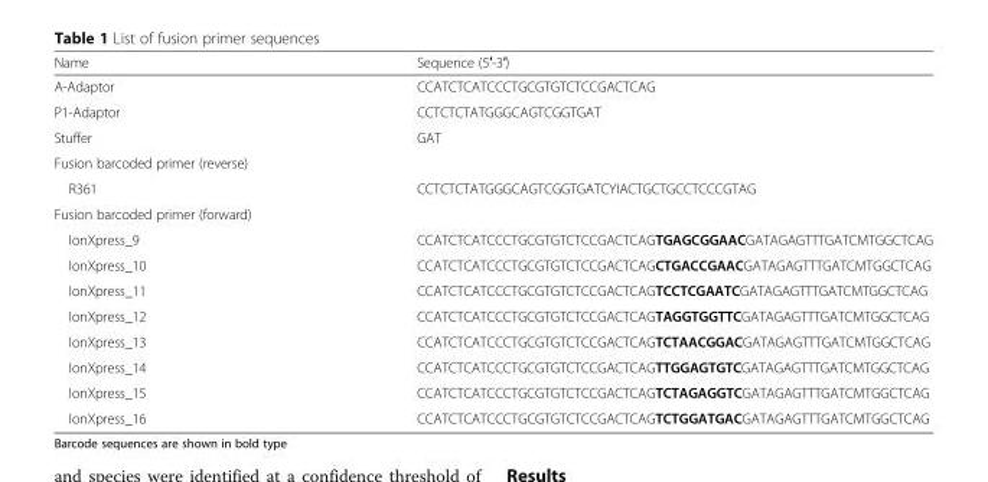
<table><thead><tr><td>Name</td><td>Sequence (5′-3′)</td></tr></thead><tbody><tr><td>A-Adaptor</td><td>CCATCTCATCCCTGCGTGTCTCCGACTCAG</td></tr><tr><td>P1-Adaptor</td><td>CCTCTCTATGGGCAGTCGGTGAT</td></tr><tr><td>Stuffer</td><td>GAT</td></tr><tr><td colspan="2">Fusion barcoded primer (reverse)</td></tr><tr><td>R361</td><td>CCTCTCTATGGGCAGTCGGTGATCYIACTGCTGCCTCCCGTAG</td></tr><tr><td colspan="2">Fusion barcoded primer (forward)</td></tr><tr><td>IonXpress_9</td><td>CCATCTCATCCCTGCGTGTCTCCGACTCAGTGAGCGGAACGATAGAGTTTGATCMTGGCTCAG</td></tr><tr><td>IonXpress_10</td><td>CCATCTCATCCCTGCGTGTCTCCGACTCAGCTGACCGAACGATAGAGTTTGATCMTGGCTCAG</td></tr><tr><td>IonXpress_11</td><td>CCATCTCATCCCTGCGTGTCTCCGACTCAGTCCTCGAATCGATAGAGTTTGATCMTGGCTCAG</td></tr><tr><td>IonXpress_12</td><td>CCATCTCATCCCTGCGTGTCTCCGACTCAGTAGGTGGTTCGATAGAGTTTGATCMTGGCTCAG</td></tr><tr><td>IonXpress_13</td><td>CCATCTCATCCCTGCGTGTCTCCGACTCAGTCTAACGGACGATAGAGTTTGATCMTGGCTCAG</td></tr><tr><td>IonXpress_14</td><td>CCATCTCATCCCTGCGTGTCTCCGACTCAGTTGGAGTGTCGATAGAGTTTGATCMTGGCTCAG</td></tr><tr><td>IonXpress_15</td><td>CCATCTCATCCCTGCGTGTCTCCGACTCAGTCTAGAGGTCGATAGAGTTTGATCMTGGCTCAG</td></tr><tr><td>IonXpress_16</td><td>CCATCTCATCCCTGCGTGTCTCCGACTCAGTCTGGATGACGATAGAGTTTGATCMTGGCTCAG</td></tr></tbody></table>